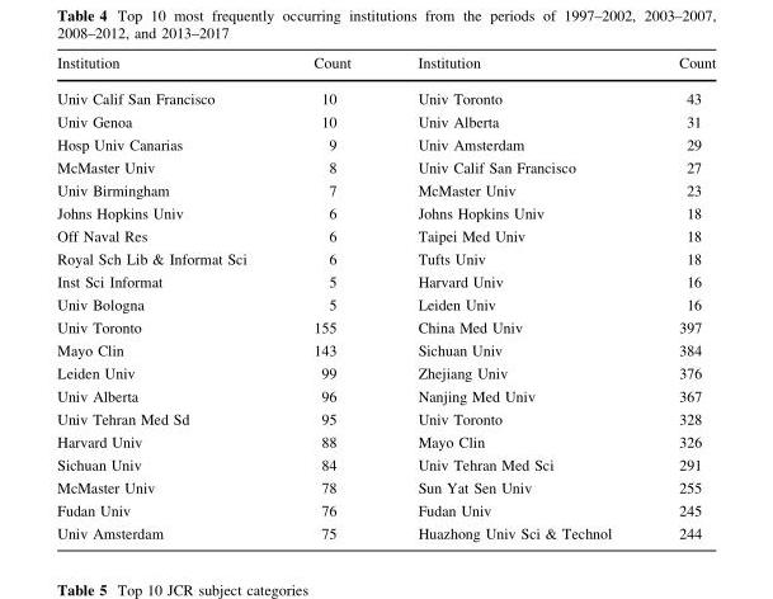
<table><thead><tr><td>Institution</td><td>Count</td><td>Institution</td><td>Count</td></tr></thead><tbody><tr><td>Univ Calif San Francisco</td><td>10</td><td>Univ Toronto</td><td>43</td></tr><tr><td>Univ Genoa</td><td>10</td><td>Univ Alberta</td><td>31</td></tr><tr><td>Hosp Univ Canarias</td><td>9</td><td>Univ Amsterdam</td><td>29</td></tr><tr><td>McMaster Univ</td><td>8</td><td>Univ Calif San Francisco</td><td>27</td></tr><tr><td>Univ Birmingham</td><td>7</td><td>McMaster Univ</td><td>23</td></tr><tr><td>Johns Hopkins Univ</td><td>6</td><td>Johns Hopkins Univ</td><td>18</td></tr><tr><td>Off Naval Res</td><td>6</td><td>Taipei Med Univ</td><td>18</td></tr><tr><td>Royal Sch Lib &amp; Informat Sci</td><td>6</td><td>Tufts Univ</td><td>18</td></tr><tr><td>Inst Sci Informat</td><td>5</td><td>Harvard Univ</td><td>16</td></tr><tr><td>Univ Bologna</td><td>5</td><td>Leiden Univ</td><td>16</td></tr><tr><td>Univ Toronto</td><td>155</td><td>China Med Univ</td><td>397</td></tr><tr><td>Mayo Clin</td><td>143</td><td>Sichuan Univ</td><td>384</td></tr><tr><td>Leiden Univ</td><td>99</td><td>Zhejiang Univ</td><td>376</td></tr><tr><td>Univ Alberta</td><td>96</td><td>Nanjing Med Univ</td><td>367</td></tr><tr><td>Univ Tehran Med Sd</td><td>95</td><td>Univ Toronto</td><td>328</td></tr><tr><td>Harvard Univ</td><td>88</td><td>Mayo Clin</td><td>326</td></tr><tr><td>Sichuan Univ</td><td>84</td><td>Univ Tehran Med Sci</td><td>291</td></tr><tr><td>McMaster Univ</td><td>78</td><td>Sun Yat Sen Univ</td><td>255</td></tr><tr><td>Fudan Univ</td><td>76</td><td>Fudan Univ</td><td>245</td></tr><tr><td>Univ Amsterdam</td><td>75</td><td>Huazhong Univ Sci &amp; Technol</td><td>244</td></tr></tbody></table>